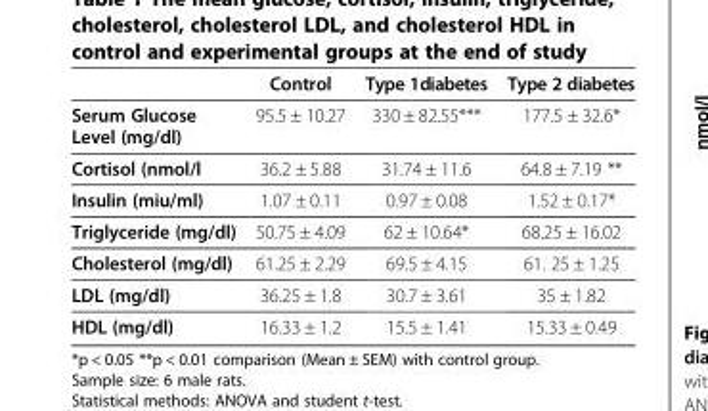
<table><thead><tr><td></td><td>Control</td><td>Type 1diabetes</td><td>Type 2 diabetes</td></tr></thead><tbody><tr><td>Serum Glucose Level (mg/dl)</td><td>95.5 ± 10.27</td><td>330 ± 82.55***</td><td>177.5 ± 32.6*</td></tr><tr><td>Cortisol (nmol/l</td><td>36.2 ± 5.88</td><td>31.74 ± 11.6</td><td>64.8 ± 7.19 **</td></tr><tr><td>Insulin (miu/ml)</td><td>1.07 ± 0.11</td><td>0.97 ± 0.08</td><td>1.52 ± 0.17*</td></tr><tr><td>Triglyceride (mg/dl)</td><td>50.75 ± 4.09</td><td>62 ± 10.64*</td><td>68.25 ± 16.02</td></tr><tr><td>Cholesterol (mg/dl)</td><td>61.25 ± 2.29</td><td>69.5 ± 4.15</td><td>61. 25 ± 1.25</td></tr><tr><td>LDL (mg/dl)</td><td>36.25 ± 1.8</td><td>30.7 ± 3.61</td><td>35 ± 1.82</td></tr><tr><td>HDL (mg/dl)</td><td>16.33 ± 1.2</td><td>15.5 ± 1.41</td><td>15.33 ± 0.49</td></tr></tbody></table>